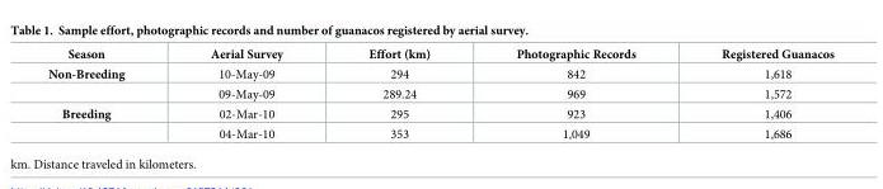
<table><thead><tr><td>Season</td><td>Aerial Survey</td><td>Effort (km)</td><td>Photographic Records</td><td>Registered Guanacos</td></tr></thead><tbody><tr><td rowspan="2">Non-Breeding</td><td>10-May-09</td><td>294</td><td>842</td><td>1,618</td></tr><tr><td>09-May-09</td><td>289.24</td><td>969</td><td>1,572</td></tr><tr><td rowspan="2">Breeding</td><td>02-Mar-10</td><td>295</td><td>923</td><td>1,406</td></tr><tr><td>04-Mar-10</td><td>353</td><td>1,049</td><td>1,686</td></tr></tbody></table>